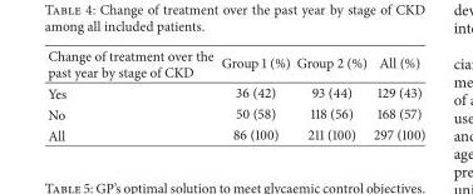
<table><thead><tr><td>Change of treatment over the past year by stage of CKD</td><td>Group 1 (%)</td><td>Group 2 (%)</td><td>All (%)</td></tr></thead><tbody><tr><td>Yes</td><td>36 (42)</td><td>93 (44)</td><td>129 (43)</td></tr><tr><td>No</td><td>50 (58)</td><td>118 (56)</td><td>168 (57)</td></tr><tr><td>All</td><td>86 (100)</td><td>211 (100)</td><td>297 (100)</td></tr></tbody></table>